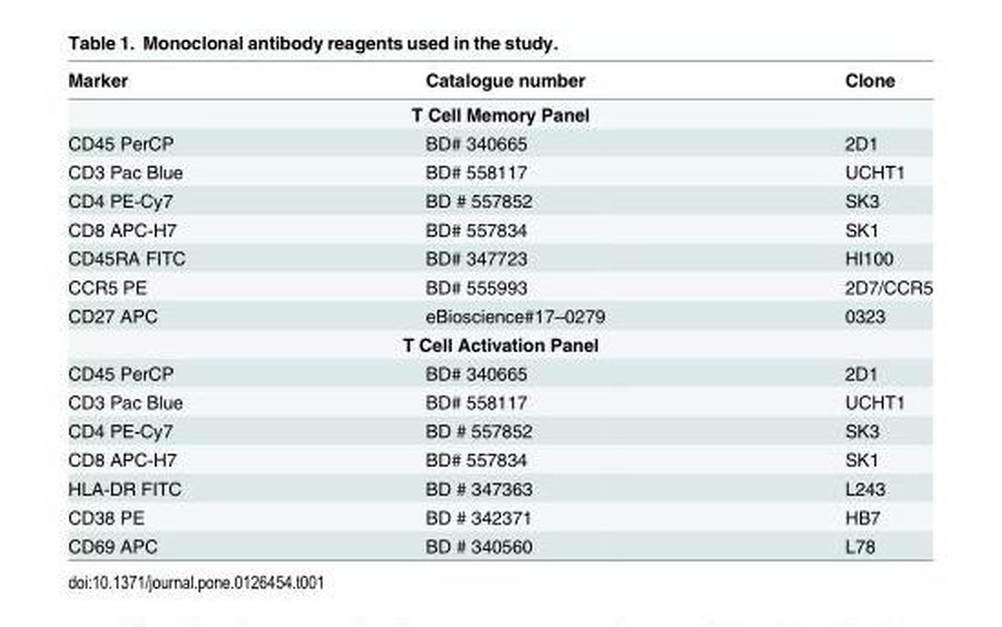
<table><thead><tr><td>Marker</td><td>Catalogue number</td><td>Clone</td></tr></thead><tbody><tr><td colspan="3">T Cell Memory Panel</td></tr><tr><td>CD45 PerCP</td><td>BD# 340665</td><td>2D1</td></tr><tr><td>CD3 Pac Blue</td><td>BD# 558117</td><td>UCHT1</td></tr><tr><td>CD4 PE-Cy7</td><td>BD # 557852</td><td>SK3</td></tr><tr><td>CD8 APC-H7</td><td>BD# 557834</td><td>SK1</td></tr><tr><td>CD45RA FITC</td><td>BD# 347723</td><td>HI100</td></tr><tr><td>CCR5 PE</td><td>BD# 555993</td><td>2D7/CCR5</td></tr><tr><td>CD27 APC</td><td>eBioscience#17–0279</td><td>0323</td></tr><tr><td colspan="3">T Cell Activation Panel</td></tr><tr><td>CD45 PerCP</td><td>BD# 340665</td><td>2D1</td></tr><tr><td>CD3 Pac Blue</td><td>BD# 558117</td><td>UCHT1</td></tr><tr><td>CD4 PE-Cy7</td><td>BD # 557852</td><td>SK3</td></tr><tr><td>CD8 APC-H7</td><td>BD# 557834</td><td>SK1</td></tr><tr><td>HLA-DR FITC</td><td>BD # 347363</td><td>L243</td></tr><tr><td>CD38 PE</td><td>BD # 342371</td><td>HB7</td></tr><tr><td>CD69 APC</td><td>BD # 340560</td><td>L78</td></tr></tbody></table>